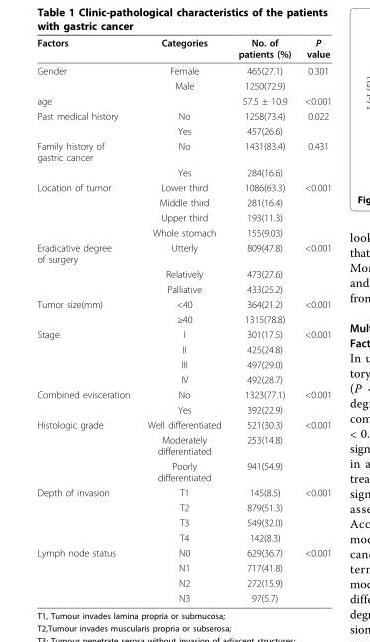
<table><thead><tr><td>Factors</td><td>Categories</td><td>No. of patients (%)</td><td>P value</td></tr></thead><tbody><tr><td rowspan="2">Gender</td><td>Female</td><td>465(27.1)</td><td>0.301</td></tr><tr><td>Male</td><td>1250(72.9)</td><td></td></tr><tr><td>age</td><td></td><td>57.5 ± 10.9</td><td>&lt;0.001</td></tr><tr><td rowspan="2">Past medical history</td><td>No</td><td>1258(73.4)</td><td>0.022</td></tr><tr><td>Yes</td><td>457(26.6)</td><td></td></tr><tr><td rowspan="2">Family history of gastric cancer</td><td>No</td><td>1431(83.4)</td><td>0.431</td></tr><tr><td>Yes</td><td>284(16.6)</td><td></td></tr><tr><td rowspan="4">Location of tumor</td><td>Lower third</td><td>1086(63.3)</td><td>&lt;0.001</td></tr><tr><td>Middle third</td><td>281(16.4)</td><td></td></tr><tr><td>Upper third</td><td>193(11.3)</td><td></td></tr><tr><td>Whole stomach</td><td>155(9.03)</td><td></td></tr><tr><td rowspan="3">Eradicative degree of surgery</td><td>Utterly</td><td>809(47.8)</td><td>&lt;0.001</td></tr><tr><td>Relatively</td><td>473(27.6)</td><td></td></tr><tr><td>Palliative</td><td>433(25.2)</td><td></td></tr><tr><td rowspan="2">Tumor size(mm)</td><td>&lt;40</td><td>364(21.2)</td><td>&lt;0.001</td></tr><tr><td>≥40</td><td>1315(78.8)</td><td></td></tr><tr><td rowspan="4">Stage</td><td>I</td><td>301(17.5)</td><td>&lt;0.001</td></tr><tr><td>II</td><td>425(24.8)</td><td></td></tr><tr><td>III</td><td>497(29.0)</td><td></td></tr><tr><td>IV</td><td>492(28.7)</td><td></td></tr><tr><td rowspan="2">Combined evisceration</td><td>No</td><td>1323(77.1)</td><td>&lt;0.001</td></tr><tr><td>Yes</td><td>392(22.9)</td><td></td></tr><tr><td rowspan="3">Histologic grade</td><td>Well differentiated</td><td>521(30.3)</td><td>&lt;0.001</td></tr><tr><td>Moderately differentiated</td><td>253(14.8)</td><td></td></tr><tr><td>Poorly differentiated</td><td>941(54.9)</td><td></td></tr><tr><td rowspan="4">Depth of invasion</td><td>T1</td><td>145(8.5)</td><td>&lt;0.001</td></tr><tr><td>T2</td><td>879(51.3)</td><td></td></tr><tr><td>T3</td><td>549(32.0)</td><td></td></tr><tr><td>T4</td><td>142(8.3)</td><td></td></tr><tr><td rowspan="4">Lymph node status</td><td>N0</td><td>629(36.7)</td><td>&lt;0.001</td></tr><tr><td>N1</td><td>717(41.8)</td><td></td></tr><tr><td>N2</td><td>272(15.9)</td><td></td></tr><tr><td>N3</td><td>97(5.7)</td><td></td></tr></tbody></table>